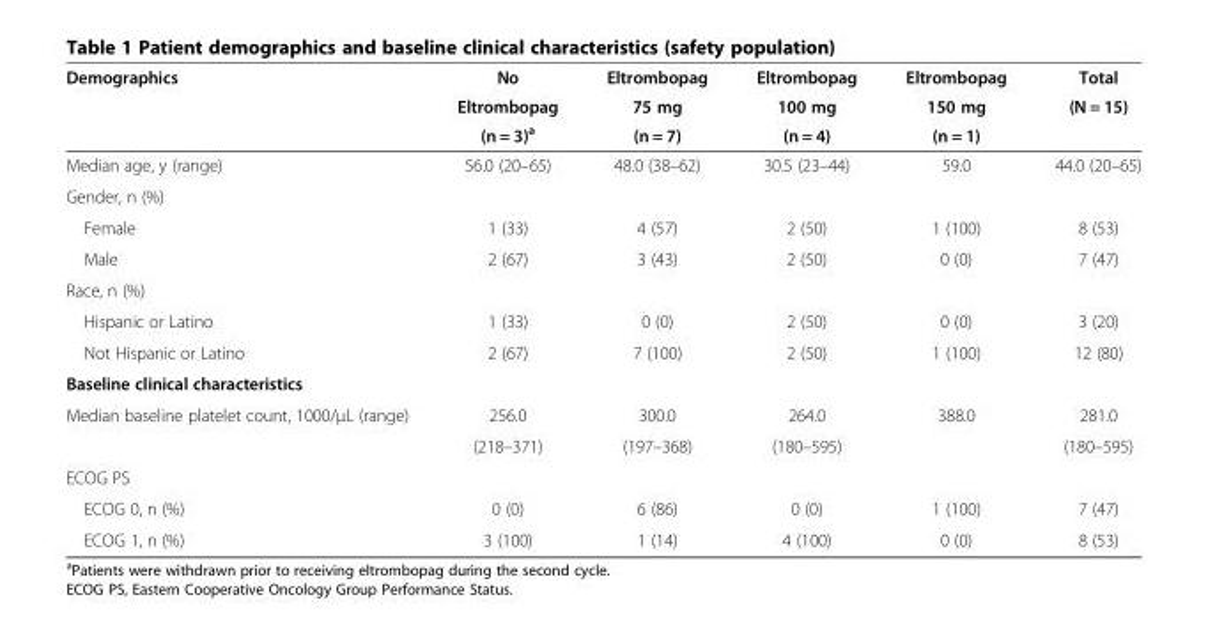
<table><thead><tr><td rowspan="3">Demographics</td><td rowspan="3">No Eltrombopag (n = 3)<sup>a</sup></td><td rowspan="3">Eltrombopag 75 mg (n = 7)</td><td rowspan="3">Eltrombopag 100 mg (n = 4)</td><td rowspan="3">Eltrombopag 150 mg (n = 1)</td><td rowspan="3">Total (N = 15)</td></tr><tr></tr><tr></tr></thead><tbody><tr><td>Median age, y (range)</td><td>56.0 (20–65)</td><td>48.0 (38–62)</td><td>30.5 (23–44)</td><td>59.0</td><td>44.0 (20–65)</td></tr><tr><td colspan="6">Gender, n (%)</td></tr><tr><td>Female</td><td>1 (33)</td><td>4 (57)</td><td>2 (50)</td><td>1 (100)</td><td>8 (53)</td></tr><tr><td>Male</td><td>2 (67)</td><td>3 (43)</td><td>2 (50)</td><td>0 (0)</td><td>7 (47)</td></tr><tr><td colspan="6">Race, n (%)</td></tr><tr><td>Hispanic or Latino</td><td>1 (33)</td><td>0 (0)</td><td>2 (50)</td><td>0 (0)</td><td>3 (20)</td></tr><tr><td>Not Hispanic or Latino</td><td>2 (67)</td><td>7 (100)</td><td>2 (50)</td><td>1 (100)</td><td>12 (80)</td></tr><tr><td colspan="6">Baseline clinical characteristics</td></tr><tr><td rowspan="2">Median baseline platelet count, 1000/μL (range)</td><td>256.0</td><td>300.0</td><td>264.0</td><td>388.0</td><td>281.0</td></tr><tr><td>(218–371)</td><td>(197–368)</td><td>(180–595)</td><td></td><td>(180–595)</td></tr><tr><td colspan="6">ECOG PS</td></tr><tr><td>ECOG 0, n (%)</td><td>0 (0)</td><td>6 (86)</td><td>0 (0)</td><td>1 (100)</td><td>7 (47)</td></tr><tr><td>ECOG 1, n (%)</td><td>3 (100)</td><td>1 (14)</td><td>4 (100)</td><td>0 (0)</td><td>8 (53)</td></tr></tbody></table>